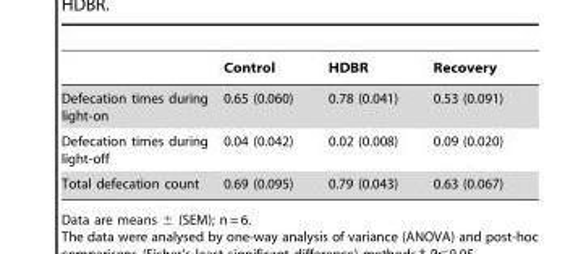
<table><thead><tr><td></td><td>Control</td><td>HDBR</td><td>Recovery</td></tr></thead><tbody><tr><td>Defecation times during light-on</td><td>0.65 (0.060)</td><td>0.78 (0.041)</td><td>0.53 (0.091)</td></tr><tr><td>Defecation times during light-off</td><td>0.04 (0.042)</td><td>0.02 (0.008)</td><td>0.09 (0.020)</td></tr><tr><td>Total defecation count</td><td>0.69 (0.095)</td><td>0.79 (0.043)</td><td>0.63 (0.067)</td></tr></tbody></table>